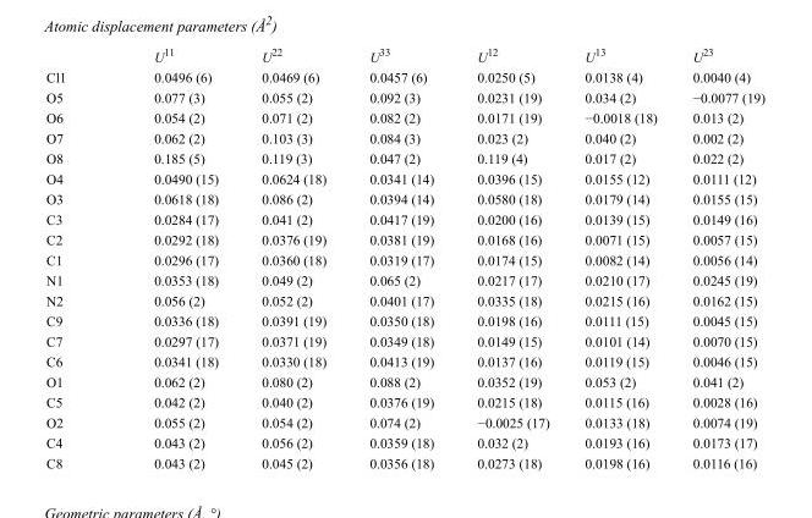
<table><thead><tr><td></td><td>U<sup>11</sup></td><td>U<sup>22</sup></td><td>U<sup>33</sup></td><td>U<sup>12</sup></td><td>U<sup>13</sup></td><td>U<sup>23</sup></td></tr></thead><tbody><tr><td>Cl1</td><td>0.0496 (6)</td><td>0.0469 (6)</td><td>0.0457 (6)</td><td>0.0250 (5)</td><td>0.0138 (4)</td><td>0.0040 (4)</td></tr><tr><td>O5</td><td>0.077 (3)</td><td>0.055 (2)</td><td>0.092 (3)</td><td>0.0231 (19)</td><td>0.034 (2)</td><td>−0.0077 (19)</td></tr><tr><td>O6</td><td>0.054 (2)</td><td>0.071 (2)</td><td>0.082 (2)</td><td>0.0171 (19)</td><td>−0.0018 (18)</td><td>0.013 (2)</td></tr><tr><td>O7</td><td>0.062 (2)</td><td>0.103 (3)</td><td>0.084 (3)</td><td>0.023 (2)</td><td>0.040 (2)</td><td>0.002 (2)</td></tr><tr><td>O8</td><td>0.185 (5)</td><td>0.119 (3)</td><td>0.047 (2)</td><td>0.119 (4)</td><td>0.017 (2)</td><td>0.022 (2)</td></tr><tr><td>O4</td><td>0.0490 (15)</td><td>0.0624 (18)</td><td>0.0341 (14)</td><td>0.0396 (15)</td><td>0.0155 (12)</td><td>0.0111 (12)</td></tr><tr><td>O3</td><td>0.0618 (18)</td><td>0.086 (2)</td><td>0.0394 (14)</td><td>0.0580 (18)</td><td>0.0179 (14)</td><td>0.0155 (15)</td></tr><tr><td>C3</td><td>0.0284 (17)</td><td>0.041 (2)</td><td>0.0417 (19)</td><td>0.0200 (16)</td><td>0.0139 (15)</td><td>0.0149 (16)</td></tr><tr><td>C2</td><td>0.0292 (18)</td><td>0.0376 (19)</td><td>0.0381 (19)</td><td>0.0168 (16)</td><td>0.0071 (15)</td><td>0.0057 (15)</td></tr><tr><td>C1</td><td>0.0296 (17)</td><td>0.0360 (18)</td><td>0.0319 (17)</td><td>0.0174 (15)</td><td>0.0082 (14)</td><td>0.0056 (14)</td></tr><tr><td>N1</td><td>0.0353 (18)</td><td>0.049 (2)</td><td>0.065 (2)</td><td>0.0217 (17)</td><td>0.0210 (17)</td><td>0.0245 (19)</td></tr><tr><td>N2</td><td>0.056 (2)</td><td>0.052 (2)</td><td>0.0401 (17)</td><td>0.0335 (18)</td><td>0.0215 (16)</td><td>0.0162 (15)</td></tr><tr><td>C9</td><td>0.0336 (18)</td><td>0.0391 (19)</td><td>0.0350 (18)</td><td>0.0198 (16)</td><td>0.0111 (15)</td><td>0.0045 (15)</td></tr><tr><td>C7</td><td>0.0297 (17)</td><td>0.0371 (19)</td><td>0.0349 (18)</td><td>0.0149 (15)</td><td>0.0101 (14)</td><td>0.0070 (15)</td></tr><tr><td>C6</td><td>0.0341 (18)</td><td>0.0330 (18)</td><td>0.0413 (19)</td><td>0.0137 (16)</td><td>0.0119 (15)</td><td>0.0046 (15)</td></tr><tr><td>O1</td><td>0.062 (2)</td><td>0.080 (2)</td><td>0.088 (2)</td><td>0.0352 (19)</td><td>0.053 (2)</td><td>0.041 (2)</td></tr><tr><td>C5</td><td>0.042 (2)</td><td>0.040 (2)</td><td>0.0376 (19)</td><td>0.0215 (18)</td><td>0.0115 (16)</td><td>0.0028 (16)</td></tr><tr><td>O2</td><td>0.055 (2)</td><td>0.054 (2)</td><td>0.074 (2)</td><td>−0.0025 (17)</td><td>0.0133 (18)</td><td>0.0074 (19)</td></tr><tr><td>C4</td><td>0.043 (2)</td><td>0.056 (2)</td><td>0.0359 (18)</td><td>0.032 (2)</td><td>0.0193 (16)</td><td>0.0173 (17)</td></tr><tr><td>C8</td><td>0.043 (2)</td><td>0.045 (2)</td><td>0.0356 (18)</td><td>0.0273 (18)</td><td>0.0198 (16)</td><td>0.0116 (16)</td></tr></tbody></table>